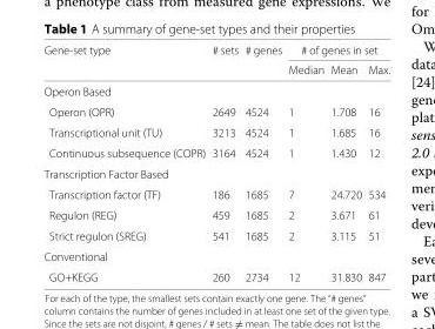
<table><thead><tr><td rowspan="2">Gene-set type</td><td rowspan="2"># sets</td><td rowspan="2"># genes</td><td colspan="3"># of genes in set</td></tr><tr><td>Median</td><td>Mean</td><td>Max.</td></tr></thead><tbody><tr><td colspan="6">Operon Based</td></tr><tr><td>Operon (OPR)</td><td>2649</td><td>4524</td><td>1</td><td>1.708</td><td>16</td></tr><tr><td>Transcriptional unit (TU)</td><td>3213</td><td>4524</td><td>1</td><td>1.685</td><td>16</td></tr><tr><td>Continuous subsequence (COPR)</td><td>3164</td><td>4524</td><td>1</td><td>1.430</td><td>12</td></tr><tr><td colspan="6">Transcription Factor Based</td></tr><tr><td>Transcription factor (TF)</td><td>186</td><td>1685</td><td>7</td><td>24.720</td><td>534</td></tr><tr><td>Regulon (REG)</td><td>459</td><td>1685</td><td>2</td><td>3.671</td><td>61</td></tr><tr><td>Strict regulon (SREG)</td><td>541</td><td>1685</td><td>2</td><td>3.115</td><td>51</td></tr><tr><td colspan="6">Conventional</td></tr><tr><td>GO+KEGG</td><td>260</td><td>2734</td><td>12</td><td>31.830</td><td>847</td></tr></tbody></table>